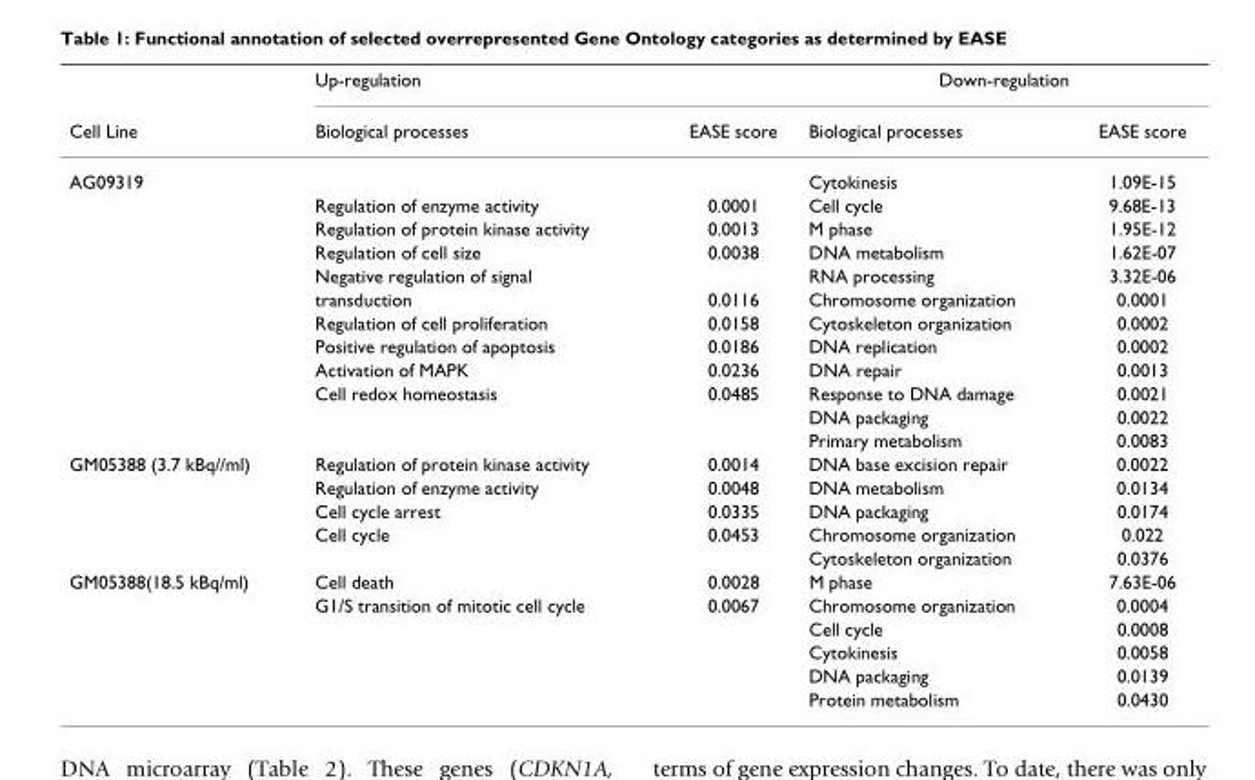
<table><thead><tr><td rowspan="2">Cell Line</td><td colspan="2">Up-regulation</td><td colspan="2">Down-regulation</td></tr><tr><td>Biological processes</td><td>EASE score</td><td>Biological processes</td><td>EASE score</td></tr></thead><tbody><tr><td rowspan="12">AG09319</td><td></td><td></td><td>Cytokinesis</td><td>1.09E-15</td></tr><tr><td>Regulation of enzyme activity</td><td>0.0001</td><td>Cell cycle</td><td>9.68E-13</td></tr><tr><td>Regulation of protein kinase activity</td><td>0.0013</td><td>M phase</td><td>1.95E-12</td></tr><tr><td>Regulation of cell size</td><td>0.0038</td><td>DNA metabolism</td><td>1.62E-07</td></tr><tr><td>Negative regulation of signal</td><td></td><td>RNA processing</td><td>3.32E-06</td></tr><tr><td>transduction</td><td>0.0116</td><td>Chromosome organization</td><td>0.0001</td></tr><tr><td>Regulation of cell proliferation</td><td>0.0158</td><td>Cytoskeleton organization</td><td>0.0002</td></tr><tr><td>Positive regulation of apoptosis</td><td>0.0186</td><td>DNA replication</td><td>0.0002</td></tr><tr><td>Activation of MAPK</td><td>0.0236</td><td>DNA repair</td><td>0.0013</td></tr><tr><td>Cell redox homeostasis</td><td>0.0485</td><td>Response to DNA damage</td><td>0.0021</td></tr><tr><td></td><td></td><td>DNA packaging</td><td>0.0022</td></tr><tr><td></td><td></td><td>Primary metabolism</td><td>0.0083</td></tr><tr><td rowspan="5">GM05388 (3.7 kBq//ml)</td><td>Regulation of protein kinase activity</td><td>0.0014</td><td>DNA base excision repair</td><td>0.0022</td></tr><tr><td>Regulation of enzyme activity</td><td>0.0048</td><td>DNA metabolism</td><td>0.0134</td></tr><tr><td>Cell cycle arrest</td><td>0.0335</td><td>DNA packaging</td><td>0.0174</td></tr><tr><td>Cell cycle</td><td>0.0453</td><td>Chromosome organization</td><td>0.022</td></tr><tr><td></td><td></td><td>Cytoskeleton organization</td><td>0.0376</td></tr><tr><td rowspan="6">GM05388(18.5 kBq/ml)</td><td>Cell death</td><td>0.0028</td><td>M phase</td><td>7.63E-06</td></tr><tr><td>G1/S transition of mitotic cell cycle</td><td>0.0067</td><td>Chromosome organization</td><td>0.0004</td></tr><tr><td></td><td></td><td>Cell cycle</td><td>0.0008</td></tr><tr><td></td><td></td><td>Cytokinesis</td><td>0.0058</td></tr><tr><td></td><td></td><td>DNA packaging</td><td>0.0139</td></tr><tr><td></td><td></td><td>Protein metabolism</td><td>0.0430</td></tr></tbody></table>